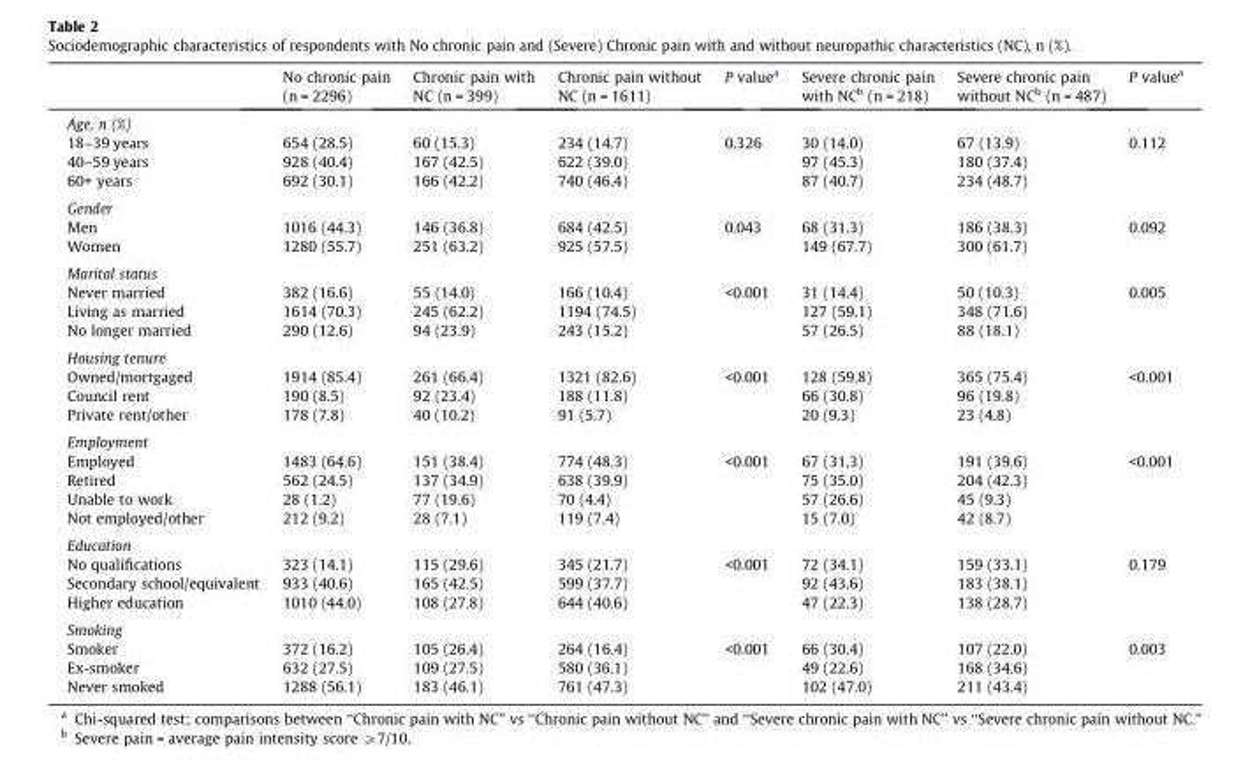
<table><thead><tr><td></td><td>No chronic pain (n = 2296)</td><td>Chronic pain with NC (n = 399)</td><td>Chronic pain without NC (n = 1611)</td><td>P value<sup>a</sup></td><td>Severe chronic pain with NC<sup>b</sup> (n = 218)</td><td>Severe chronic pain without NC<sup>b</sup> (n = 487)</td><td>P value<sup>a</sup></td></tr></thead><tbody><tr><td colspan="8">Age, n (%)</td></tr><tr><td>18–39 years</td><td>654 (28.5)</td><td>60 (15.3)</td><td>234 (14.7)</td><td>0.326</td><td>30 (14.0)</td><td>67 (13.9)</td><td>0.112</td></tr><tr><td>40–59 years</td><td>928 (40.4)</td><td>167 (42.5)</td><td>622 (39.0)</td><td></td><td>97 (45.3)</td><td>180 (37.4)</td><td></td></tr><tr><td>60+ years</td><td>692 (30.1)</td><td>166 (42.2)</td><td>740 (46.4)</td><td></td><td>87 (40.7)</td><td>234 (48.7)</td><td></td></tr><tr><td colspan="8">Gender</td></tr><tr><td>Men</td><td>1016 (44.3)</td><td>146 (36.8)</td><td>684 (42.5)</td><td>0.043</td><td>68 (31.3)</td><td>186 (38.3)</td><td>0.092</td></tr><tr><td>Women</td><td>1280 (55.7)</td><td>251 (63.2)</td><td>925 (57.5)</td><td></td><td>149 (67.7)</td><td>300 (61.7)</td><td></td></tr><tr><td colspan="8">Marital status</td></tr><tr><td>Never married</td><td>382 (16.6)</td><td>55 (14.0)</td><td>166 (10.4)</td><td>&lt;0.001</td><td>31 (14.4)</td><td>50 (10.3)</td><td>0.005</td></tr><tr><td>Living as married</td><td>1614 (70.3)</td><td>245 (62.2)</td><td>1194 (74.5)</td><td></td><td>127 (59.1)</td><td>348 (71.6)</td><td></td></tr><tr><td>No longer married</td><td>290 (12.6)</td><td>94 (23.9)</td><td>243 (15.2)</td><td></td><td>57 (26.5)</td><td>88 (18.1)</td><td></td></tr><tr><td colspan="8">Housing tenure</td></tr><tr><td>Owned/mortgaged</td><td>1914 (85.4)</td><td>261 (66.4)</td><td>1321 (82.6)</td><td>&lt;0.001</td><td>128 (59.8)</td><td>365 (75.4)</td><td>&lt;0.001</td></tr><tr><td>Council rent</td><td>190 (8.5)</td><td>92 (23.4)</td><td>188 (11.8)</td><td></td><td>66 (30.8)</td><td>96 (19.8)</td><td></td></tr><tr><td>Private rent/other</td><td>178 (7.8)</td><td>40 (10.2)</td><td>91 (5.7)</td><td></td><td>20 (9.3)</td><td>23 (4.8)</td><td></td></tr><tr><td colspan="8">Employment</td></tr><tr><td>Employed</td><td>1483 (64.6)</td><td>151 (38.4)</td><td>774 (48.3)</td><td>&lt;0.001</td><td>67 (31.3)</td><td>191 (39.6)</td><td>&lt;0.001</td></tr><tr><td>Retired</td><td>562 (24.5)</td><td>137 (34.9)</td><td>638 (39.9)</td><td></td><td>75 (35.0)</td><td>204 (42.3)</td><td></td></tr><tr><td>Unable to work</td><td>28 (1.2)</td><td>77 (19.6)</td><td>70 (4.4)</td><td></td><td>57 (26.6)</td><td>45 (9.3)</td><td></td></tr><tr><td>Not employed/other</td><td>212 (9.2)</td><td>28 (7.1)</td><td>119 (7.4)</td><td></td><td>15 (7.0)</td><td>42 (8.7)</td><td></td></tr><tr><td colspan="8">Education</td></tr><tr><td>No qualifications</td><td>323 (14.1)</td><td>115 (29.6)</td><td>345 (21.7)</td><td>&lt;0.001</td><td>72 (34.1)</td><td>159 (33.1)</td><td>0.179</td></tr><tr><td>Secondary school/equivalent</td><td>933 (40.6)</td><td>165 (42.5)</td><td>599 (37.7)</td><td></td><td>92 (43.6)</td><td>183 (38.1)</td><td></td></tr><tr><td>Higher education</td><td>1010 (44.0)</td><td>108 (27.8)</td><td>644 (40.6)</td><td></td><td>47 (22.3)</td><td>138 (28.7)</td><td></td></tr><tr><td colspan="8">Smoking</td></tr><tr><td>Smoker</td><td>372 (16.2)</td><td>105 (26.4)</td><td>264 (16.4)</td><td>&lt;0.001</td><td>66 (30.4)</td><td>107 (22.0)</td><td>0.003</td></tr><tr><td>Ex-smoker</td><td>632 (27.5)</td><td>109 (27.5)</td><td>580 (36.1)</td><td></td><td>49 (22.6)</td><td>168 (34.6)</td><td></td></tr><tr><td>Never smoked</td><td>1288 (56.1)</td><td>183 (46.1)</td><td>761 (47.3)</td><td></td><td>102 (47.0)</td><td>211 (43.4)</td><td></td></tr></tbody></table>